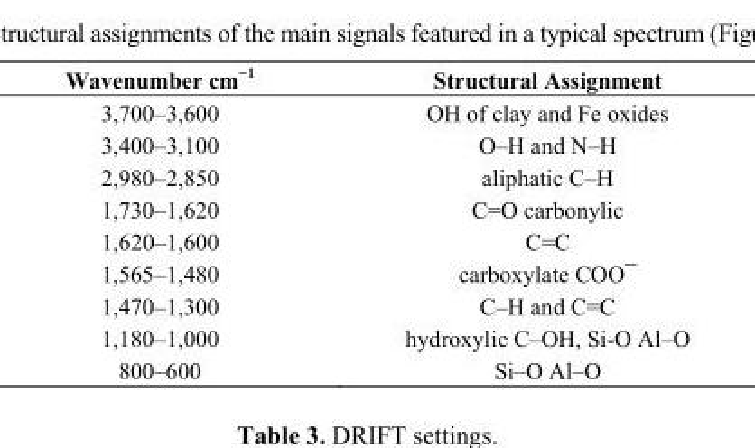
<table><thead><tr><td>Wavenumber cm<sup>−1</sup></td><td>Structural Assignment</td></tr></thead><tbody><tr><td>3,700–3,600</td><td>OH of clay and Fe oxides</td></tr><tr><td>3,400–3,100</td><td>O–H and N–H</td></tr><tr><td>2,980–2,850</td><td>aliphatic C–H</td></tr><tr><td>1,730–1,620</td><td>C=O carbonylic</td></tr><tr><td>1,620–1,600</td><td>C=C</td></tr><tr><td>1,565–1,480</td><td>carboxylate COO<sup>−</sup></td></tr><tr><td>1,470–1,300</td><td>C–H and C=C</td></tr><tr><td>1,180–1,000</td><td>hydroxylic C–OH, Si-O Al–O</td></tr><tr><td>800–600</td><td>Si–O Al–O</td></tr></tbody></table>